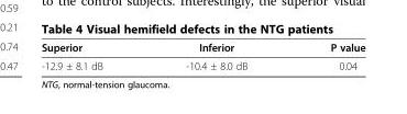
<table><thead><tr><td>Superior</td><td>Inferior</td><td>P value</td></tr></thead><tbody><tr><td>-12.9 ± 8.1 dB</td><td>-10.4 ± 8.0 dB</td><td>0.04</td></tr></tbody></table>